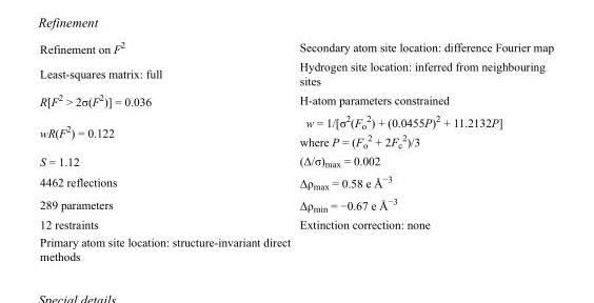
<table><tbody><tr><td>Refinement on F<sup>2</sup></td><td>Secondary atom site location: difference Fourier map</td></tr><tr><td>Least-squares matrix: full</td><td>Hydrogen site location: inferred from neighbouring sites</td></tr><tr><td>R[F<sup>2</sup> &gt; 2σ(F<sup>2</sup>)] = 0.036</td><td>H-atom parameters constrained</td></tr><tr><td>wR(F<sup>2</sup>) = 0.122</td><td>w = 1/[σ<sup>2</sup>(F<sub>o</sub> <sup>2</sup>) + (0.0455P)<sup>2</sup> + 11.2132P] where P = (F<sub>o</sub> <sup>2</sup> + 2F<sub>c</sub> <sup>2</sup>)/3</td></tr><tr><td>S = 1.12</td><td>(Δ/σ)<sub>max</sub> = 0.002</td></tr><tr><td>4462 reflections</td><td>Δρ<sub>max</sub> = 0.58 e Å<sup>−3</sup></td></tr><tr><td>289 parameters</td><td>Δρ<sub>min</sub> = −0.67 e Å<sup>−3</sup></td></tr><tr><td>12 restraints</td><td>Extinction correction: none</td></tr><tr><td>Primary atom site location: structure-invariant direct methods</td><td></td></tr></tbody></table>